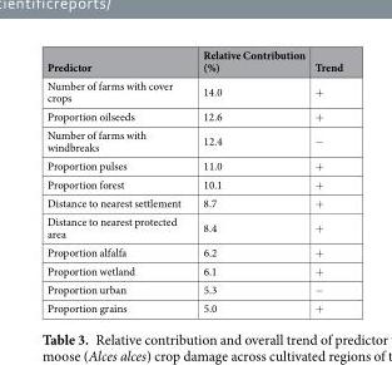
<table><thead><tr><td>Predictor</td><td>Relative Contribution (%)</td><td>Trend</td></tr></thead><tbody><tr><td>Number of farms with cover crops</td><td>14.0</td><td>+</td></tr><tr><td>Proportion oilseeds</td><td>12.6</td><td>+</td></tr><tr><td>Number of farms with windbreaks</td><td>12.4</td><td>−</td></tr><tr><td>Proportion pulses</td><td>11.0</td><td>+</td></tr><tr><td>Proportion forest</td><td>10.1</td><td>+</td></tr><tr><td>Distance to nearest settlement</td><td>8.7</td><td>+</td></tr><tr><td>Distance to nearest protected area</td><td>8.4</td><td>+</td></tr><tr><td>Proportion alfalfa</td><td>6.2</td><td>+</td></tr><tr><td>Proportion wetland</td><td>6.1</td><td>+</td></tr><tr><td>Proportion urban</td><td>5.3</td><td>−</td></tr><tr><td>Proportion grains</td><td>5.0</td><td>+</td></tr></tbody></table>